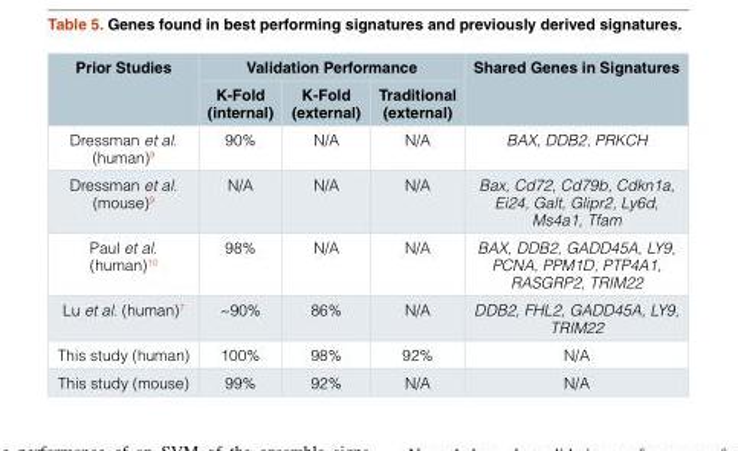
<table><thead><tr><td rowspan="2">Prior Studies</td><td colspan="3">Validation Performance</td><td rowspan="2">Shared Genes in Signatures</td></tr><tr><td>K-Fold (internal)</td><td>K-Fold (external)</td><td>Traditional (external)</td></tr></thead><tbody><tr><td>Dressman et al. (human)<sup>9</sup></td><td>90%</td><td>N/A</td><td>N/A</td><td>BAX, DDB2, PRKCH</td></tr><tr><td>Dressman et al. (mouse)<sup>9</sup></td><td>N/A</td><td>N/A</td><td>N/A</td><td>Bax, Cd72, Cd79b, Cdkn1a, Ei24, Galt, Glipr2, Ly6d, Ms4a1, Tfam</td></tr><tr><td>Paul et al. (human)<sup>10</sup></td><td>98%</td><td>N/A</td><td>N/A</td><td>BAX, DDB2, GADD45A, LY9, PCNA, PPM1D, PTP4A1, RASGRP2, TRIM22</td></tr><tr><td>Lu et al. (human)<sup>7</sup></td><td>~90%</td><td>86%</td><td>N/A</td><td>DDB2, FHL2, GADD45A, LY9, TRIM22</td></tr><tr><td>This study (human)</td><td>100%</td><td>98%</td><td>92%</td><td>N/A</td></tr><tr><td>This study (mouse)</td><td>99%</td><td>92%</td><td>N/A</td><td>N/A</td></tr></tbody></table>